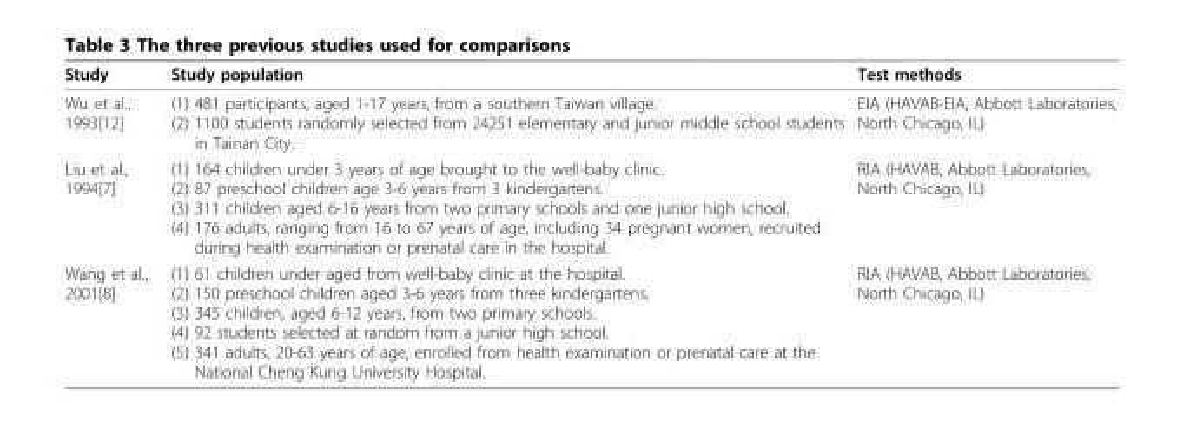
<table><thead><tr><td>Study</td><td>Study population</td><td>Test methods</td></tr></thead><tbody><tr><td>Wu et al., 1993[12]</td><td>(1) 481 participants, aged 1-17 years, from a southern Taiwan village. (2) 1100 students randomly selected from 24251 elementary and junior middle school students in Tainan City.</td><td>EIA (HAVAB-EIA, Abbott Laboratories, North Chicago, IL)</td></tr><tr><td>Liu et al., 1994[7]</td><td>(1) 164 children under 3 years of age brought to the well-baby clinic. (2) 87 preschool children age 3-6 years from 3 kindergartens. (3) 311 children aged 6-16 years from two primary schools and one junior high school. (4) 176 adults, ranging from 16 to 67 years of age, including 34 pregnant women, recruited during health examination or prenatal care in the hospital.</td><td>RIA (HAVAB, Abbott Laboratories, North Chicago, IL)</td></tr><tr><td>Wang et al., 2001[8]</td><td>(1) 61 children under aged from well-baby clinic at the hospital. (2) 150 preschool children aged 3-6 years from three kindergartens. (3) 345 children, aged 6-12 years, from two primary schools. (4) 92 students selected at random from a junior high school. (5) 341 adults, 20-63 years of age, enrolled from health examination or prenatal care at the National Cheng Kung University Hospital.</td><td>RIA (HAVAB, Abbott Laboratories, North Chicago, IL)</td></tr></tbody></table>